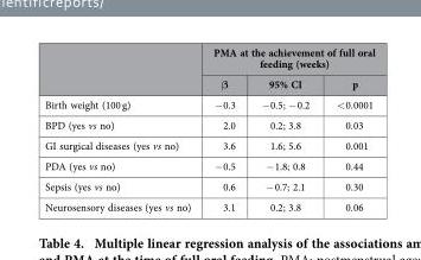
<table><thead><tr><td rowspan="2"></td><td colspan="3">PMA at the achievement of full oral feeding (weeks)</td></tr><tr><td>β</td><td>95% CI</td><td>p</td></tr></thead><tbody><tr><td>Birth weight (100 g)</td><td>− 0.3</td><td>− 0.5; − 0.2</td><td>&lt; 0.0001</td></tr><tr><td>BPD (yes vs no)</td><td>2.0</td><td>0.2; 3.8</td><td>0.03</td></tr><tr><td>GI surgical diseases (yes vs no)</td><td>3.6</td><td>1.6; 5.6</td><td>0.001</td></tr><tr><td>PDA (yes vs no)</td><td>− 0.5</td><td>− 1.8; 0.8</td><td>0.44</td></tr><tr><td>Sepsis (yes vs no)</td><td>0.6</td><td>− 0.7; 2.1</td><td>0.30</td></tr><tr><td>Neurosensory diseases (yes vs no)</td><td>3.1</td><td>0.2; 3.8</td><td>0.06</td></tr></tbody></table>